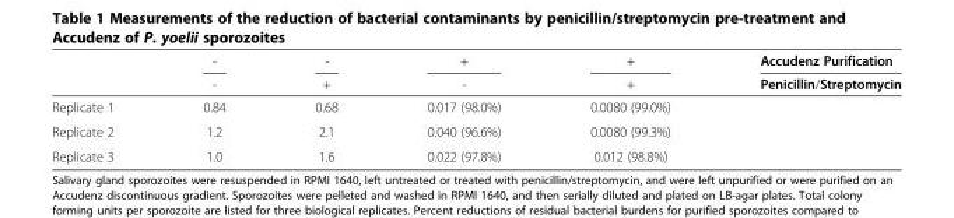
<table><thead><tr><td rowspan="2"></td><td rowspan="2">- -</td><td rowspan="2">- +</td><td rowspan="2">+ -</td><td rowspan="2">+ +</td><td rowspan="2">Accudenz Purification Penicillin/Streptomycin</td></tr><tr></tr></thead><tbody><tr><td>Replicate 1</td><td>0.84</td><td>0.68</td><td>0.017 (98.0%)</td><td>0.0080 (99.0%)</td><td></td></tr><tr><td>Replicate 2</td><td>1.2</td><td>2.1</td><td>0.040 (96.6%)</td><td>0.0080 (99.3%)</td><td></td></tr><tr><td>Replicate 3</td><td>1.0</td><td>1.6</td><td>0.022 (97.8%)</td><td>0.012 (98.8%)</td><td></td></tr></tbody></table>